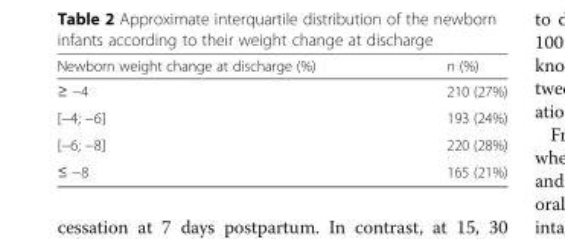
<table><thead><tr><td>Newborn weight change at discharge (%)</td><td>n (%)</td></tr></thead><tbody><tr><td>≥ −4</td><td>210 (27%)</td></tr><tr><td>[−4; −6]</td><td>193 (24%)</td></tr><tr><td>[−6; −8]</td><td>220 (28%)</td></tr><tr><td>≤ −8</td><td>165 (21%)</td></tr></tbody></table>